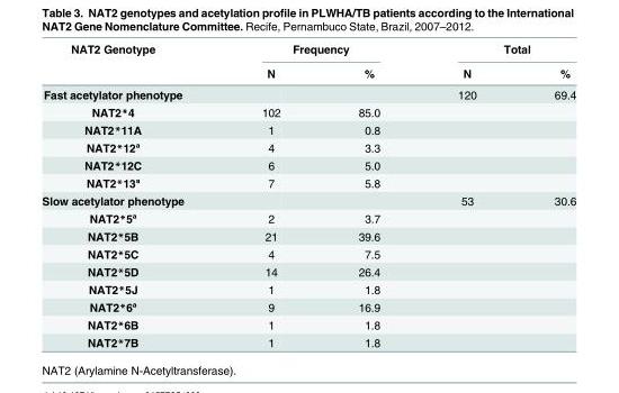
<table><thead><tr><td rowspan="2">NAT2 Genotype</td><td colspan="2">Frequency</td><td colspan="2">Total</td></tr><tr><td>N</td><td>%</td><td>N</td><td>%</td></tr></thead><tbody><tr><td>Fast acetylator phenotype</td><td></td><td></td><td>120</td><td>69.4</td></tr><tr><td>NAT2*4</td><td>102</td><td>85.0</td><td></td><td></td></tr><tr><td>NAT2*11A</td><td>1</td><td>0.8</td><td></td><td></td></tr><tr><td>NAT2*12ª</td><td>4</td><td>3.3</td><td></td><td></td></tr><tr><td>NAT2*12C</td><td>6</td><td>5.0</td><td></td><td></td></tr><tr><td>NAT2*13ª</td><td>7</td><td>5.8</td><td></td><td></td></tr><tr><td>Slow acetylator phenotype</td><td></td><td></td><td>53</td><td>30.6</td></tr><tr><td>NAT2*5ª</td><td>2</td><td>3.7</td><td></td><td></td></tr><tr><td>NAT2*5B</td><td>21</td><td>39.6</td><td></td><td></td></tr><tr><td>NAT2*5C</td><td>4</td><td>7.5</td><td></td><td></td></tr><tr><td>NAT2*5D</td><td>14</td><td>26.4</td><td></td><td></td></tr><tr><td>NAT2*5J</td><td>1</td><td>1.8</td><td></td><td></td></tr><tr><td>NAT2*6ª</td><td>9</td><td>16.9</td><td></td><td></td></tr><tr><td>NAT2*6B</td><td>1</td><td>1.8</td><td></td><td></td></tr><tr><td>NAT2*7B</td><td>1</td><td>1.8</td><td></td><td></td></tr></tbody></table>